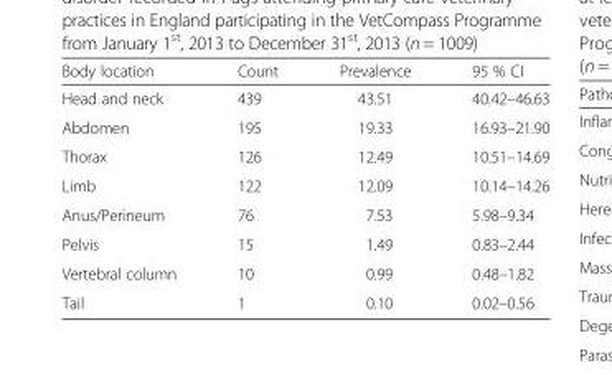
<table><thead><tr><td>Body location</td><td>Count</td><td>Prevalence</td><td>95 % CI</td></tr></thead><tbody><tr><td>Head and neck</td><td>439</td><td>43.51</td><td>40.42–46.63</td></tr><tr><td>Abdomen</td><td>195</td><td>19.33</td><td>16.93–21.90</td></tr><tr><td>Thorax</td><td>126</td><td>12.49</td><td>10.51–14.69</td></tr><tr><td>Limb</td><td>122</td><td>12.09</td><td>10.14–14.26</td></tr><tr><td>Anus/Perineum</td><td>76</td><td>7.53</td><td>5.98–9.34</td></tr><tr><td>Pelvis</td><td>15</td><td>1.49</td><td>0.83–2.44</td></tr><tr><td>Vertebral column</td><td>10</td><td>0.99</td><td>0.48–1.82</td></tr><tr><td>Tail</td><td>1</td><td>0.10</td><td>0.02–0.56</td></tr></tbody></table>